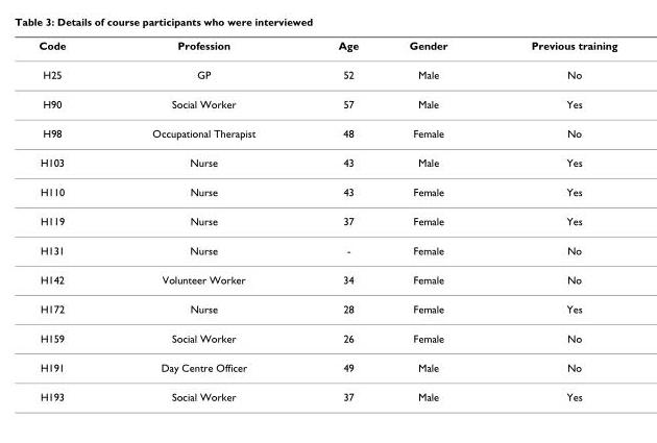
<table><thead><tr><td>Code</td><td>Profession</td><td>Age</td><td>Gender</td><td>Previous training</td></tr></thead><tbody><tr><td>H25</td><td>GP</td><td>52</td><td>Male</td><td>No</td></tr><tr><td>H90</td><td>Social Worker</td><td>57</td><td>Male</td><td>Yes</td></tr><tr><td>H98</td><td>Occupational Therapist</td><td>48</td><td>Female</td><td>No</td></tr><tr><td>H103</td><td>Nurse</td><td>43</td><td>Male</td><td>Yes</td></tr><tr><td>H110</td><td>Nurse</td><td>43</td><td>Female</td><td>Yes</td></tr><tr><td>H119</td><td>Nurse</td><td>37</td><td>Female</td><td>Yes</td></tr><tr><td>H131</td><td>Nurse</td><td>-</td><td>Female</td><td>No</td></tr><tr><td>H142</td><td>Volunteer Worker</td><td>34</td><td>Female</td><td>No</td></tr><tr><td>H172</td><td>Nurse</td><td>28</td><td>Female</td><td>Yes</td></tr><tr><td>H159</td><td>Social Worker</td><td>26</td><td>Female</td><td>No</td></tr><tr><td>H191</td><td>Day Centre Officer</td><td>49</td><td>Male</td><td>No</td></tr><tr><td>H193</td><td>Social Worker</td><td>37</td><td>Male</td><td>Yes</td></tr></tbody></table>